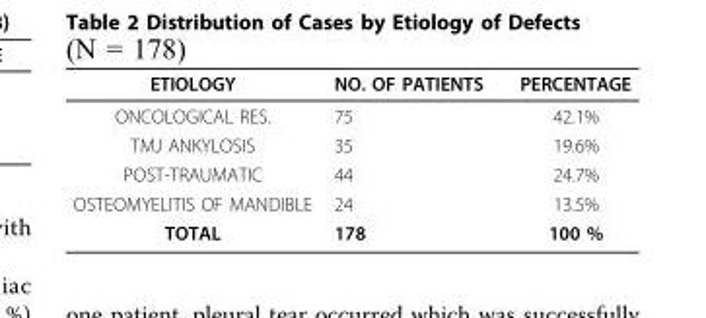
<table><thead><tr><td>ETIOLOGY</td><td>NO. OF PATIENTS</td><td>PERCENTAGE</td></tr></thead><tbody><tr><td>ONCOLOGICAL RES.</td><td>75</td><td>42.1%</td></tr><tr><td>TMJ ANKYLOSIS</td><td>35</td><td>19.6%</td></tr><tr><td>POST-TRAUMATIC</td><td>44</td><td>24.7%</td></tr><tr><td>OSTEOMYELITIS OF MANDIBLE</td><td>24</td><td>13.5%</td></tr><tr><td>TOTAL</td><td>178</td><td>100 %</td></tr></tbody></table>